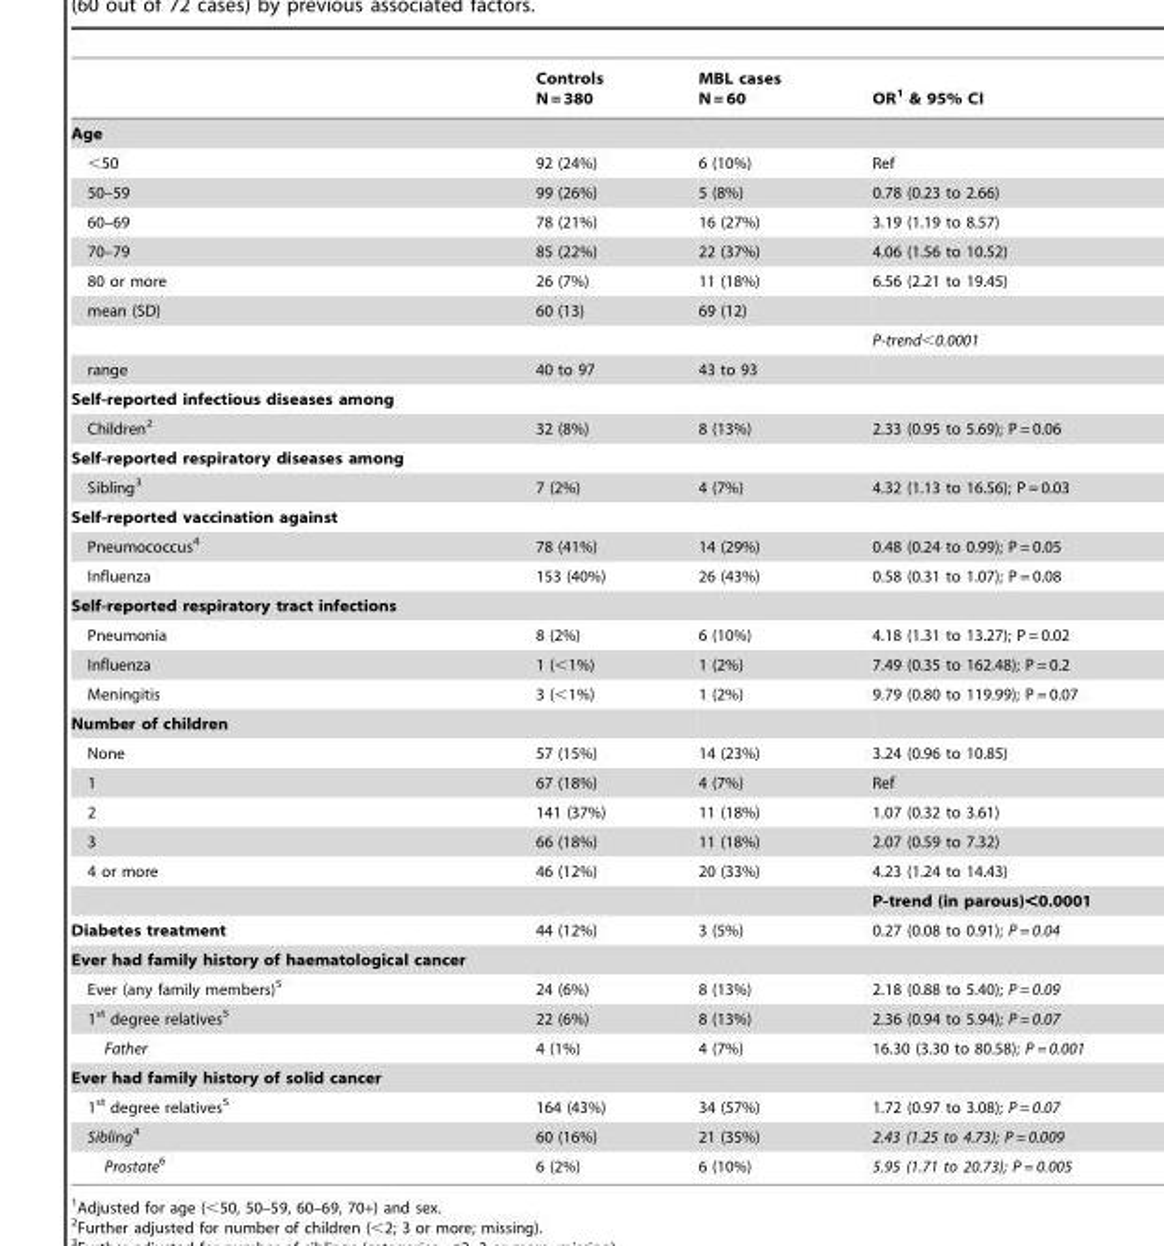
<table><thead><tr><td></td><td>Controls N = 380</td><td>MBL cases N = 60</td><td>OR<sup>1</sup> &amp; 95% CI</td></tr></thead><tbody><tr><td colspan="4">Age</td></tr><tr><td>&lt;50</td><td>92 (24%)</td><td>6 (10%)</td><td>Ref</td></tr><tr><td>50–59</td><td>99 (26%)</td><td>5 (8%)</td><td>0.78 (0.23 to 2.66)</td></tr><tr><td>60–69</td><td>78 (21%)</td><td>16 (27%)</td><td>3.19 (1.19 to 8.57)</td></tr><tr><td>70–79</td><td>85 (22%)</td><td>22 (37%)</td><td>4.06 (1.56 to 10.52)</td></tr><tr><td>80 or more</td><td>26 (7%)</td><td>11 (18%)</td><td>6.56 (2.21 to 19.45)</td></tr><tr><td rowspan="2">mean (SD)</td><td>60 (13)</td><td>69 (12)</td><td></td></tr><tr><td></td><td></td><td>P-trend&lt;0.0001</td></tr><tr><td>range</td><td>40 to 97</td><td>43 to 93</td><td></td></tr><tr><td colspan="4">Self-reported infectious diseases among</td></tr><tr><td>Children<sup>2</sup></td><td>32 (8%)</td><td>8 (13%)</td><td>2.33 (0.95 to 5.69); P = 0.06</td></tr><tr><td colspan="4">Self-reported respiratory diseases among</td></tr><tr><td>Sibling<sup>3</sup></td><td>7 (2%)</td><td>4 (7%)</td><td>4.32 (1.13 to 16.56); P = 0.03</td></tr><tr><td colspan="4">Self-reported vaccination against</td></tr><tr><td>Pneumococcus<sup>4</sup></td><td>78 (41%)</td><td>14 (29%)</td><td>0.48 (0.24 to 0.99); P = 0.05</td></tr><tr><td>Influenza</td><td>153 (40%)</td><td>26 (43%)</td><td>0.58 (0.31 to 1.07); P = 0.08</td></tr><tr><td colspan="4">Self-reported respiratory tract infections</td></tr><tr><td>Pneumonia</td><td>8 (2%)</td><td>6 (10%)</td><td>4.18 (1.31 to 13.27); P = 0.02</td></tr><tr><td>Influenza</td><td>1 (&lt;1%)</td><td>1 (2%)</td><td>7.49 (0.35 to 162.48); P = 0.2</td></tr><tr><td>Meningitis</td><td>3 (&lt;1%)</td><td>1 (2%)</td><td>9.79 (0.80 to 119.99); P = 0.07</td></tr><tr><td colspan="4">Number of children</td></tr><tr><td>None</td><td>57 (15%)</td><td>14 (23%)</td><td>3.24 (0.96 to 10.85)</td></tr><tr><td>1</td><td>67 (18%)</td><td>4 (7%)</td><td>Ref</td></tr><tr><td>2</td><td>141 (37%)</td><td>11 (18%)</td><td>1.07 (0.32 to 3.61)</td></tr><tr><td>3</td><td>66 (18%)</td><td>11 (18%)</td><td>2.07 (0.59 to 7.32)</td></tr><tr><td rowspan="2">4 or more</td><td>46 (12%)</td><td>20 (33%)</td><td>4.23 (1.24 to 14.43)</td></tr><tr><td></td><td></td><td>P-trend (in parous)&lt;0.0001</td></tr><tr><td>Diabetes treatment</td><td>44 (12%)</td><td>3 (5%)</td><td>0.27 (0.08 to 0.91); P = 0.04</td></tr><tr><td colspan="4">Ever had family history of haematological cancer</td></tr><tr><td>Ever (any family members)<sup>5</sup></td><td>24 (6%)</td><td>8 (13%)</td><td>2.18 (0.88 to 5.40); P = 0.09</td></tr><tr><td>1<sup>st</sup> degree relatives<sup>5</sup></td><td>22 (6%)</td><td>8 (13%)</td><td>2.36 (0.94 to 5.94); P = 0.07</td></tr><tr><td>Father</td><td>4 (1%)</td><td>4 (7%)</td><td>16.30 (3.30 to 80.58); P = 0.001</td></tr><tr><td colspan="4">Ever had family history of solid cancer</td></tr><tr><td>1<sup>st</sup> degree relatives<sup>5</sup></td><td>164 (43%)</td><td>34 (57%)</td><td>1.72 (0.97 to 3.08); P = 0.07</td></tr><tr><td>Sibling4</td><td>60 (16%)</td><td>21 (35%)</td><td>2.43 (1.25 to 4.73); P = 0.009</td></tr><tr><td>Prostate6</td><td>6 (2%)</td><td>6 (10%)</td><td>5.95 (1.71 to 20.73); P = 0.005</td></tr></tbody></table>